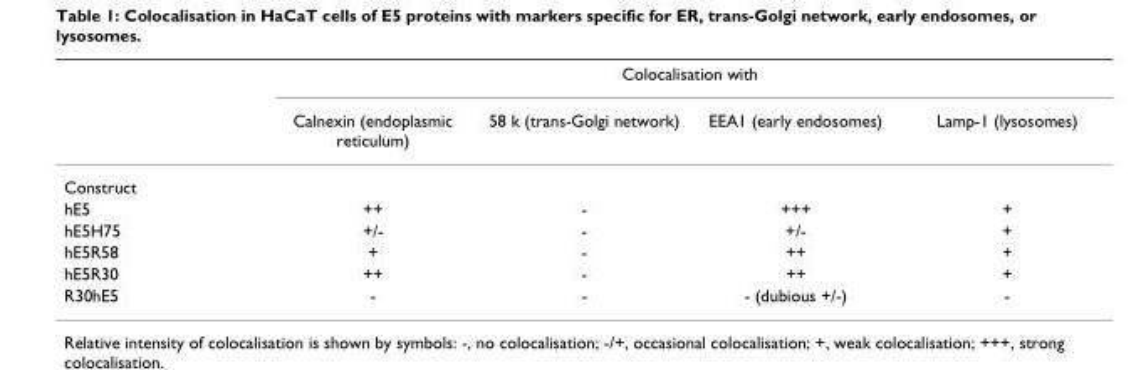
<table><thead><tr><td rowspan="2"></td><td rowspan="2">Calnexin (endoplasmic reticulum)</td><td colspan="2">Colocalisation with</td><td rowspan="2">Lamp-1 (lysosomes)</td></tr><tr><td>58 k (trans-Golgi network)</td><td>EEA1 (early endosomes)</td></tr></thead><tbody><tr><td colspan="5">Construct</td></tr><tr><td>hE5</td><td>++</td><td>-</td><td>+++</td><td>+</td></tr><tr><td>hE5H75</td><td>+/-</td><td>-</td><td>+/-</td><td>+</td></tr><tr><td>hE5R58</td><td>+</td><td>-</td><td>++</td><td>+</td></tr><tr><td>hE5R30</td><td>++</td><td>-</td><td>++</td><td>+</td></tr><tr><td>R30hE5</td><td>-</td><td>-</td><td>- (dubious +/-)</td><td>-</td></tr></tbody></table>